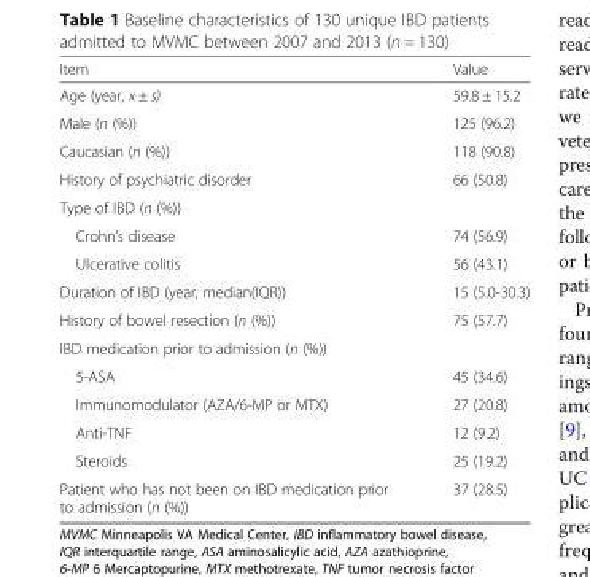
<table><thead><tr><td>Item</td><td>Value</td></tr></thead><tbody><tr><td>Age (year, x ± s)</td><td>59.8 ± 15.2</td></tr><tr><td>Male (n (%))</td><td>125 (96.2)</td></tr><tr><td>Caucasian (n (%))</td><td>118 (90.8)</td></tr><tr><td>History of psychiatric disorder</td><td>66 (50.8)</td></tr><tr><td colspan="2">Type of IBD (n (%))</td></tr><tr><td>Crohn’s disease</td><td>74 (56.9)</td></tr><tr><td>Ulcerative colitis</td><td>56 (43.1)</td></tr><tr><td>Duration of IBD (year, median(IQR))</td><td>15 (5.0-30.3)</td></tr><tr><td>History of bowel resection (n (%))</td><td>75 (57.7)</td></tr><tr><td colspan="2">IBD medication prior to admission (n (%))</td></tr><tr><td>5-ASA</td><td>45 (34.6)</td></tr><tr><td>Immunomodulator (AZA/6-MP or MTX)</td><td>27 (20.8)</td></tr><tr><td>Anti-TNF</td><td>12 (9.2)</td></tr><tr><td>Steroids</td><td>25 (19.2)</td></tr><tr><td>Patient who has not been on IBD medication prior to admission (n (%))</td><td>37 (28.5)</td></tr></tbody></table>